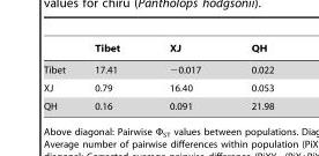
<table><thead><tr><td></td><td>Tibet</td><td>XJ</td><td>QH</td></tr></thead><tbody><tr><td>Tibet</td><td>17.41</td><td>−0.017</td><td>0.022</td></tr><tr><td>XJ</td><td>0.79</td><td>16.40</td><td>0.053</td></tr><tr><td>QH</td><td>0.16</td><td>0.091</td><td>21.98</td></tr></tbody></table>